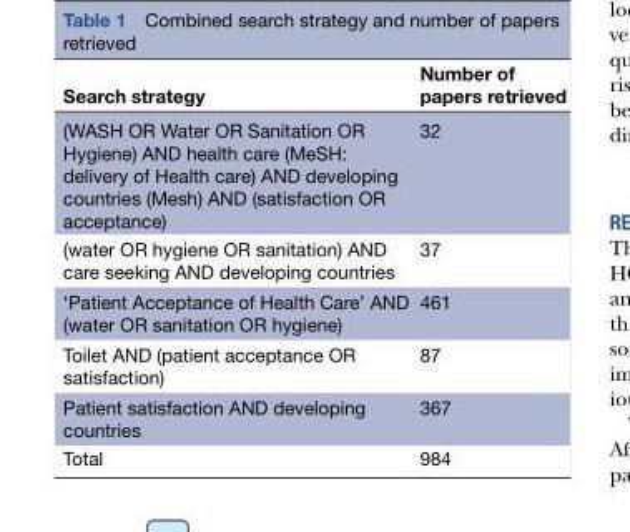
<table><thead><tr><td>Search strategy</td><td>Number of papers retrieved</td></tr></thead><tbody><tr><td>(WASH OR Water OR Sanitation OR Hygiene) AND health care (MeSH: delivery of Health care) AND developing countries (Mesh) AND (satisfaction OR acceptance)</td><td>32</td></tr><tr><td>(water OR hygiene OR sanitation) AND care seeking AND developing countries</td><td>37</td></tr><tr><td>‘Patient Acceptance of Health Care’ AND (water OR sanitation OR hygiene)</td><td>461</td></tr><tr><td>Toilet AND (patient acceptance OR satisfaction)</td><td>87</td></tr><tr><td>Patient satisfaction AND developing countries</td><td>367</td></tr><tr><td>Total</td><td>984</td></tr></tbody></table>